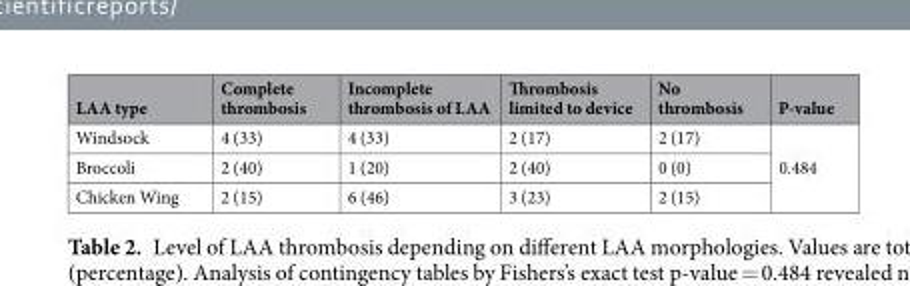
<table><thead><tr><td>LAA type</td><td>Complete thrombosis</td><td>Incomplete thrombosis of LAA</td><td>Thrombosis limited to device</td><td>No thrombosis</td><td>P-value</td></tr></thead><tbody><tr><td>Windsock</td><td>4 (33)</td><td>4 (33)</td><td>2 (17)</td><td>2 (17)</td><td rowspan="3">0.484</td></tr><tr><td>Broccoli</td><td>2 (40)</td><td>1 (20)</td><td>2 (40)</td><td>0 (0)</td></tr><tr><td>Chicken Wing</td><td>2 (15)</td><td>6 (46)</td><td>3 (23)</td><td>2 (15)</td></tr></tbody></table>